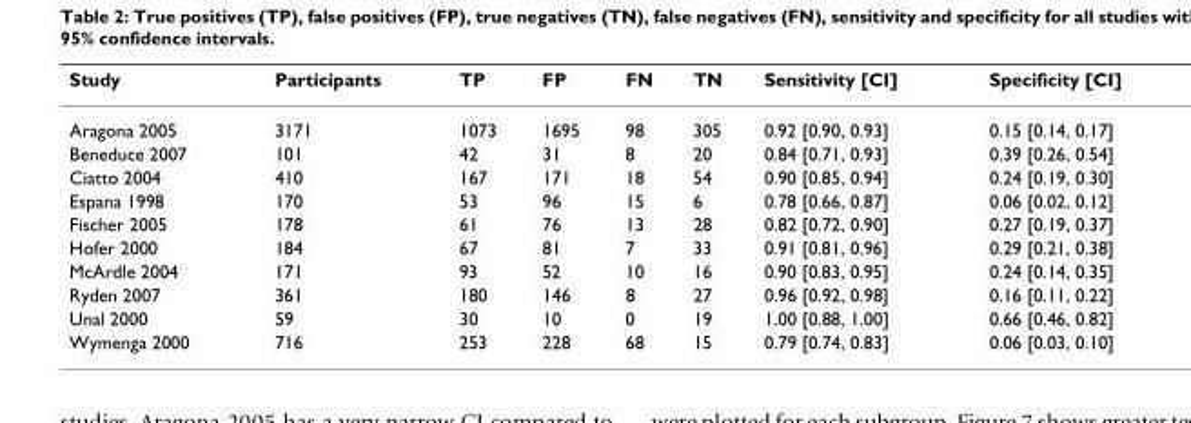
<table><thead><tr><td>Study</td><td>Participants</td><td>TP</td><td>FP</td><td>FN</td><td>TN</td><td>Sensitivity [CI]</td><td>Specificity [CI]</td></tr></thead><tbody><tr><td>Aragona 2005</td><td>3171</td><td>1073</td><td>1695</td><td>98</td><td>305</td><td>0.92 [0.90, 0.93]</td><td>0.15 [0.14, 0.17]</td></tr><tr><td>Beneduce 2007</td><td>101</td><td>42</td><td>31</td><td>8</td><td>20</td><td>0.84 [0.71, 0.93]</td><td>0.39 [0.26, 0.54]</td></tr><tr><td>Ciatto 2004</td><td>410</td><td>167</td><td>171</td><td>18</td><td>54</td><td>0.90 [0.85, 0.94]</td><td>0.24 [0.19, 0.30]</td></tr><tr><td>Espana 1998</td><td>170</td><td>53</td><td>96</td><td>15</td><td>6</td><td>0.78 [0.66, 0.87]</td><td>0.06 [0.02, 0.12]</td></tr><tr><td>Fischer 2005</td><td>178</td><td>61</td><td>76</td><td>13</td><td>28</td><td>0.82 [0.72, 0.90]</td><td>0.27 [0.19, 0.37]</td></tr><tr><td>Hofer 2000</td><td>184</td><td>67</td><td>81</td><td>7</td><td>33</td><td>0.91 [0.81, 0.96]</td><td>0.29 [0.21, 0.38]</td></tr><tr><td>McArdle 2004</td><td>171</td><td>93</td><td>52</td><td>10</td><td>16</td><td>0.90 [0.83, 0.95]</td><td>0.24 [0.14, 0.35]</td></tr><tr><td>Ryden 2007</td><td>361</td><td>180</td><td>146</td><td>8</td><td>27</td><td>0.96 [0.92, 0.98]</td><td>0.16 [0.11, 0.22]</td></tr><tr><td>Unal 2000</td><td>59</td><td>30</td><td>10</td><td>0</td><td>19</td><td>1.00 [0.88, 1.00]</td><td>0.66 [0.46, 0.82]</td></tr><tr><td>Wymenga 2000</td><td>716</td><td>253</td><td>228</td><td>68</td><td>15</td><td>0.79 [0.74, 0.83]</td><td>0.06 [0.03, 0.10]</td></tr></tbody></table>